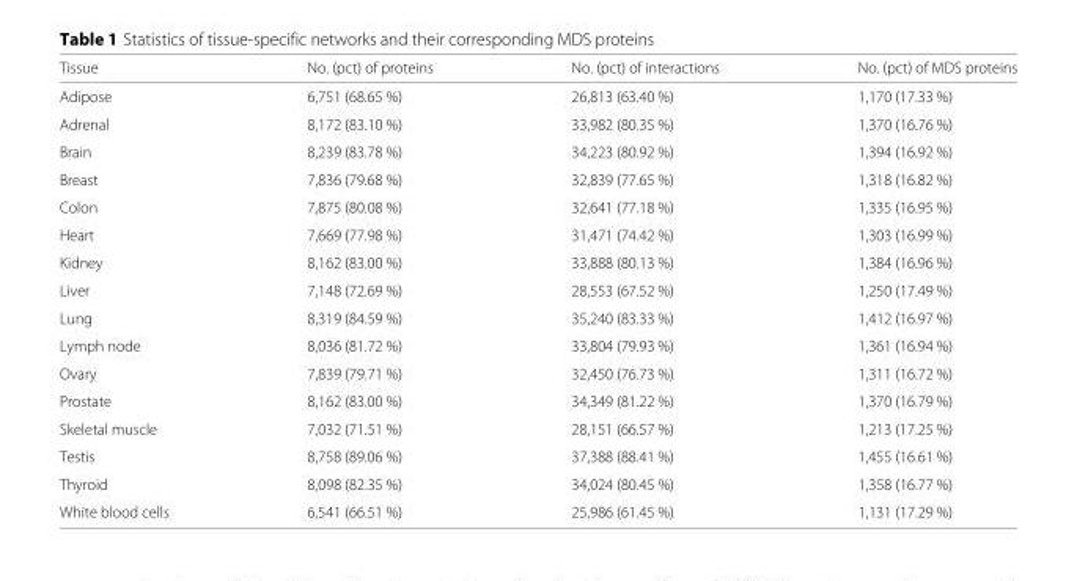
<table><thead><tr><td>Tissue</td><td>No. (pct) of proteins</td><td>No. (pct) of interactions</td><td>No. (pct) of MDS proteins</td></tr></thead><tbody><tr><td>Adipose</td><td>6,751 (68.65 %)</td><td>26,813 (63.40 %)</td><td>1,170 (17.33 %)</td></tr><tr><td>Adrenal</td><td>8,172 (83.10 %)</td><td>33,982 (80.35 %)</td><td>1,370 (16.76 %)</td></tr><tr><td>Brain</td><td>8,239 (83.78 %)</td><td>34,223 (80.92 %)</td><td>1,394 (16.92 %)</td></tr><tr><td>Breast</td><td>7,836 (79.68 %)</td><td>32,839 (77.65 %)</td><td>1,318 (16.82 %)</td></tr><tr><td>Colon</td><td>7,875 (80.08 %)</td><td>32,641 (77.18 %)</td><td>1,335 (16.95 %)</td></tr><tr><td>Heart</td><td>7,669 (77.98 %)</td><td>31,471 (74.42 %)</td><td>1,303 (16.99 %)</td></tr><tr><td>Kidney</td><td>8,162 (83.00 %)</td><td>33,888 (80.13 %)</td><td>1,384 (16.96 %)</td></tr><tr><td>Liver</td><td>7,148 (72.69 %)</td><td>28,553 (67.52 %)</td><td>1,250 (17.49 %)</td></tr><tr><td>Lung</td><td>8,319 (84.59 %)</td><td>35,240 (83.33 %)</td><td>1,412 (16.97 %)</td></tr><tr><td>Lymph node</td><td>8,036 (81.72 %)</td><td>33,804 (79.93 %)</td><td>1,361 (16.94 %)</td></tr><tr><td>Ovary</td><td>7,839 (79.71 %)</td><td>32,450 (76.73 %)</td><td>1,311 (16.72 %)</td></tr><tr><td>Prostate</td><td>8,162 (83.00 %)</td><td>34,349 (81.22 %)</td><td>1,370 (16.79 %)</td></tr><tr><td>Skeletal muscle</td><td>7,032 (71.51 %)</td><td>28,151 (66.57 %)</td><td>1,213 (17.25 %)</td></tr><tr><td>Testis</td><td>8,758 (89.06 %)</td><td>37,388 (88.41 %)</td><td>1,455 (16.61 %)</td></tr><tr><td>Thyroid</td><td>8,098 (82.35 %)</td><td>34,024 (80.45 %)</td><td>1,358 (16.77 %)</td></tr><tr><td>White blood cells</td><td>6,541 (66.51 %)</td><td>25,986 (61.45 %)</td><td>1,131 (17.29 %)</td></tr></tbody></table>